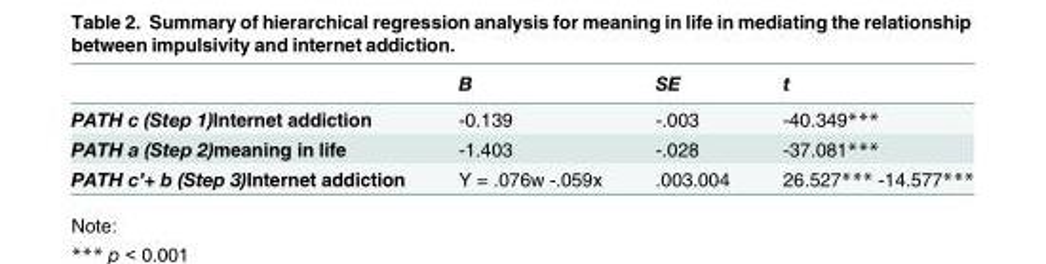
<table><thead><tr><td></td><td>B</td><td>SE</td><td>t</td></tr></thead><tbody><tr><td>PATH c (Step 1)Internet addiction</td><td>-0.139</td><td>-.003</td><td>-40.349***</td></tr><tr><td>PATH a (Step 2)meaning in life</td><td>-1.403</td><td>-.028</td><td>-37.081***</td></tr><tr><td>PATH c’+ b (Step 3)Internet addiction</td><td>Y = .076w -.059x</td><td>.003.004</td><td>26.527*** -14.577***</td></tr></tbody></table>